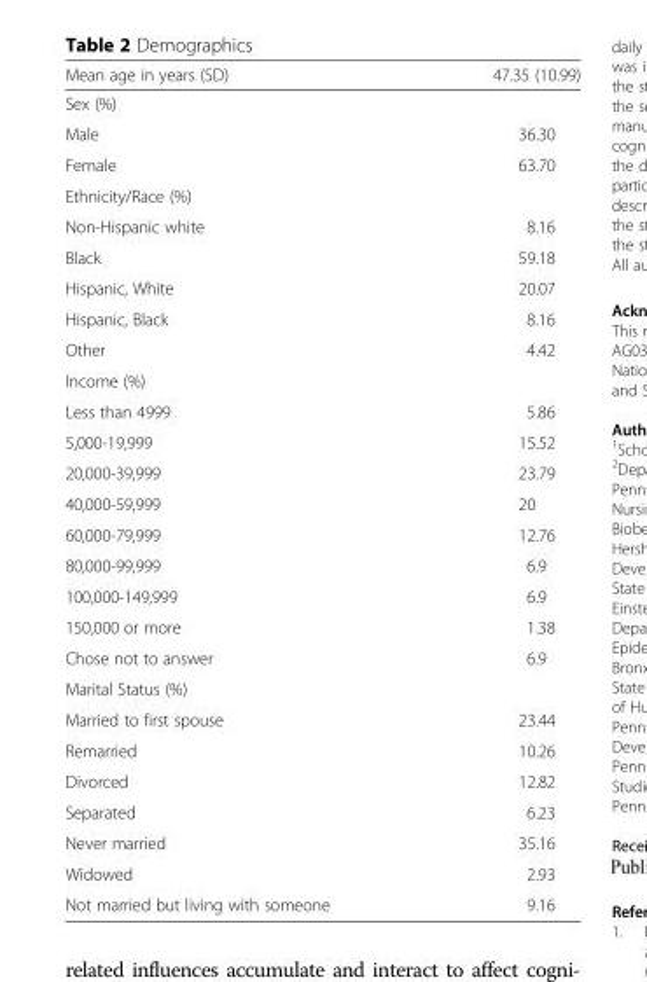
<table><thead><tr><td>Mean age in years (SD)</td><td>47.35 (10.99)</td></tr></thead><tbody><tr><td colspan="2">Sex (%)</td></tr><tr><td>Male</td><td>36.30</td></tr><tr><td>Female</td><td>63.70</td></tr><tr><td colspan="2">Ethnicity/Race (%)</td></tr><tr><td>Non-Hispanic white</td><td>8.16</td></tr><tr><td>Black</td><td>59.18</td></tr><tr><td>Hispanic, White</td><td>20.07</td></tr><tr><td>Hispanic, Black</td><td>8.16</td></tr><tr><td>Other</td><td>4.42</td></tr><tr><td colspan="2">Income (%)</td></tr><tr><td>Less than 4999</td><td>5.86</td></tr><tr><td>5,000-19,999</td><td>15.52</td></tr><tr><td>20,000-39,999</td><td>23.79</td></tr><tr><td>40,000-59,999</td><td>20</td></tr><tr><td>60,000-79,999</td><td>12.76</td></tr><tr><td>80,000-99,999</td><td>6.9</td></tr><tr><td>100,000-149,999</td><td>6.9</td></tr><tr><td>150,000 or more</td><td>1.38</td></tr><tr><td>Chose not to answer</td><td>6.9</td></tr><tr><td colspan="2">Marital Status (%)</td></tr><tr><td>Married to first spouse</td><td>23.44</td></tr><tr><td>Remarried</td><td>10.26</td></tr><tr><td>Divorced</td><td>12.82</td></tr><tr><td>Separated</td><td>6.23</td></tr><tr><td>Never married</td><td>35.16</td></tr><tr><td>Widowed</td><td>2.93</td></tr><tr><td>Not married but living with someone</td><td>9.16</td></tr></tbody></table>